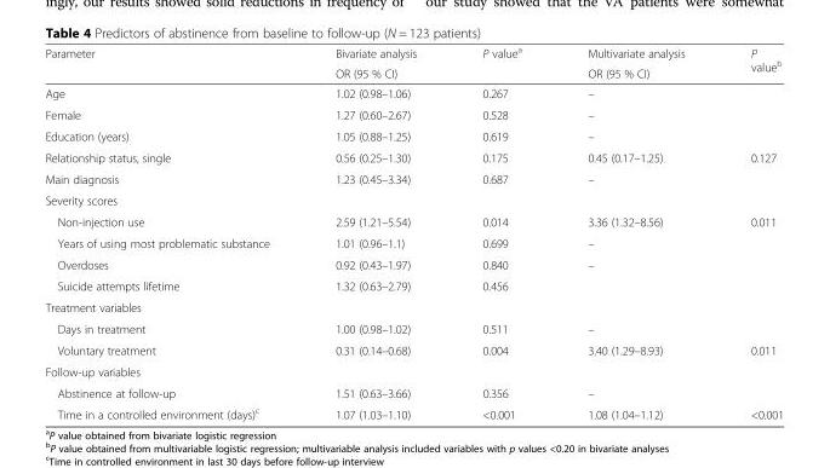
<table><thead><tr><td rowspan="2">Parameter</td><td rowspan="2">Bivariate analysis OR (95 % CI)</td><td rowspan="2">P value<sup>a</sup></td><td rowspan="2">Multivariate analysis OR (95 % CI)</td><td rowspan="2">P value<sup>b</sup></td></tr><tr></tr></thead><tbody><tr><td>Age</td><td>1.02 (0.98–1.06)</td><td>0.267</td><td>–</td><td></td></tr><tr><td>Female</td><td>1.27 (0.60–2.67)</td><td>0.528</td><td>–</td><td></td></tr><tr><td>Education (years)</td><td>1.05 (0.88–1.25)</td><td>0.619</td><td>–</td><td></td></tr><tr><td>Relationship status, single</td><td>0.56 (0.25–1.30)</td><td>0.175</td><td>0.45 (0.17–1.25)</td><td>0.127</td></tr><tr><td>Main diagnosis</td><td>1.23 (0.45–3.34)</td><td>0.687</td><td>–</td><td></td></tr><tr><td colspan="5">Severity scores</td></tr><tr><td>Non-injection use</td><td>2.59 (1.21–5.54)</td><td>0.014</td><td>3.36 (1.32–8.56)</td><td>0.011</td></tr><tr><td>Years of using most problematic substance</td><td>1.01 (0.96–1.1)</td><td>0.699</td><td>–</td><td></td></tr><tr><td>Overdoses</td><td>0.92 (0.43–1.97)</td><td>0.840</td><td>–</td><td></td></tr><tr><td>Suicide attempts lifetime</td><td>1.32 (0.63–2.79)</td><td>0.456</td><td></td><td></td></tr><tr><td colspan="5">Treatment variables</td></tr><tr><td>Days in treatment</td><td>1.00 (0.98–1.02)</td><td>0.511</td><td>–</td><td></td></tr><tr><td>Voluntary treatment</td><td>0.31 (0.14–0.68)</td><td>0.004</td><td>3.40 (1.29–8.93)</td><td>0.011</td></tr><tr><td colspan="5">Follow-up variables</td></tr><tr><td>Abstinence at follow-up</td><td>1.51 (0.63–3.66)</td><td>0.356</td><td>–</td><td></td></tr><tr><td>Time in a controlled environment (days)<sup>c</sup></td><td>1.07 (1.03–1.10)</td><td>&lt;0.001</td><td>1.08 (1.04–1.12)</td><td>&lt;0.001</td></tr></tbody></table>